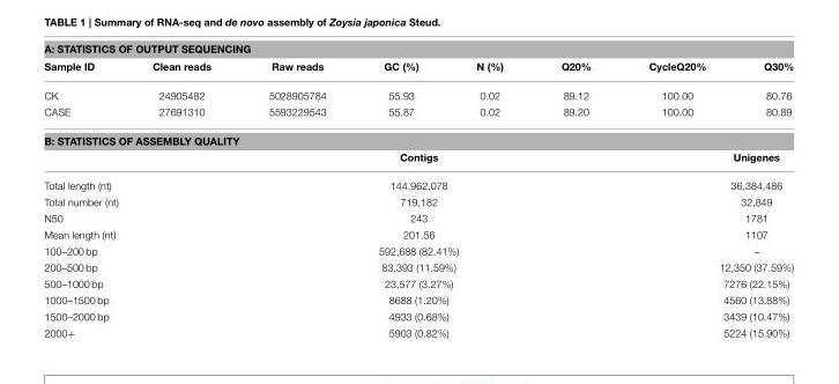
<table><thead><tr><td colspan="8">A: STATISTICS OF OUTPUT SEQUENCING</td></tr><tr><td>Sample ID</td><td>Clean reads</td><td>Raw reads</td><td>GC (%)</td><td>N (%)</td><td>Q20%</td><td>CycleQ20%</td><td>Q30%</td></tr></thead><tbody><tr><td>CK</td><td>24905482</td><td>5028905784</td><td>55.93</td><td>0.02</td><td>89.12</td><td>100.00</td><td>80.76</td></tr><tr><td>CASE</td><td>27691310</td><td>5593229543</td><td>55.87</td><td>0.02</td><td>89.20</td><td>100.00</td><td>80.89</td></tr><tr><td colspan="8">B: STATISTICS OF ASSEMBLY QUALITY</td></tr><tr><td></td><td></td><td></td><td>Contigs</td><td></td><td></td><td></td><td>Unigenes</td></tr><tr><td>Total length (nt)</td><td></td><td></td><td>144,962,078</td><td></td><td></td><td></td><td>36,384,486</td></tr><tr><td>Total number (nt)</td><td></td><td></td><td>719,182</td><td></td><td></td><td></td><td>32,849</td></tr><tr><td>N50</td><td></td><td></td><td>243</td><td></td><td></td><td></td><td>1781</td></tr><tr><td>Mean length (nt)</td><td></td><td></td><td>201.56</td><td></td><td></td><td></td><td>1107</td></tr><tr><td>100–200 bp</td><td></td><td></td><td>592,688 (82.41%)</td><td></td><td></td><td></td><td>–</td></tr><tr><td>200–500 bp</td><td></td><td></td><td>83,393 (11.59%)</td><td></td><td></td><td></td><td>12,350 (37.59%)</td></tr><tr><td>500–1000 bp</td><td></td><td></td><td>23,577 (3.27%)</td><td></td><td></td><td></td><td>7276 (22.15%)</td></tr><tr><td>1000–1500 bp</td><td></td><td></td><td>8688 (1.20%)</td><td></td><td></td><td></td><td>4560 (13.88%)</td></tr><tr><td>1500–2000 bp</td><td></td><td></td><td>4933 (0.68%)</td><td></td><td></td><td></td><td>3439 (10.47%)</td></tr><tr><td>2000+</td><td></td><td></td><td>5903 (0.82%)</td><td></td><td></td><td></td><td>5224 (15.90%)</td></tr></tbody></table>